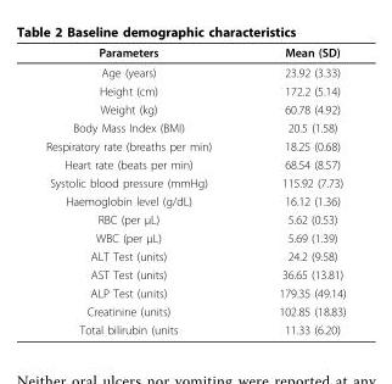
<table><thead><tr><td>Parameters</td><td>Mean (SD)</td></tr></thead><tbody><tr><td>Age (years)</td><td>23.92 (3.33)</td></tr><tr><td>Height (cm)</td><td>172.2 (5.14)</td></tr><tr><td>Weight (kg)</td><td>60.78 (4.92)</td></tr><tr><td>Body Mass Index (BMI)</td><td>20.5 (1.58)</td></tr><tr><td>Respiratory rate (breaths per min)</td><td>18.25 (0.68)</td></tr><tr><td>Heart rate (beats per min)</td><td>68.54 (8.57)</td></tr><tr><td>Systolic blood pressure (mmHg)</td><td>115.92 (7.73)</td></tr><tr><td>Haemoglobin level (g/dL)</td><td>16.12 (1.36)</td></tr><tr><td>RBC (per μL)</td><td>5.62 (0.53)</td></tr><tr><td>WBC (per μL)</td><td>5.69 (1.39)</td></tr><tr><td>ALT Test (units)</td><td>24.2 (9.58)</td></tr><tr><td>AST Test (units)</td><td>36.65 (13.81)</td></tr><tr><td>ALP Test (units)</td><td>179.35 (49.14)</td></tr><tr><td>Creatinine (units)</td><td>102.85 (18.83)</td></tr><tr><td>Total bilirubin (units</td><td>11.33 (6.20)</td></tr></tbody></table>